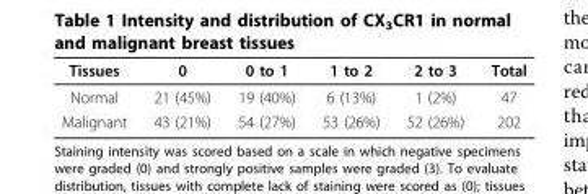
<table><thead><tr><td>Tissues</td><td>0</td><td>0 to 1</td><td>1 to 2</td><td>2 to 3</td><td>Total</td></tr></thead><tbody><tr><td>Normal</td><td>21 (45%)</td><td>19 (40%)</td><td>6 (13%)</td><td>1 (2%)</td><td>47</td></tr><tr><td>Malignant</td><td>43 (21%)</td><td>54 (27%)</td><td>53 (26%)</td><td>52 (26%)</td><td>202</td></tr></tbody></table>